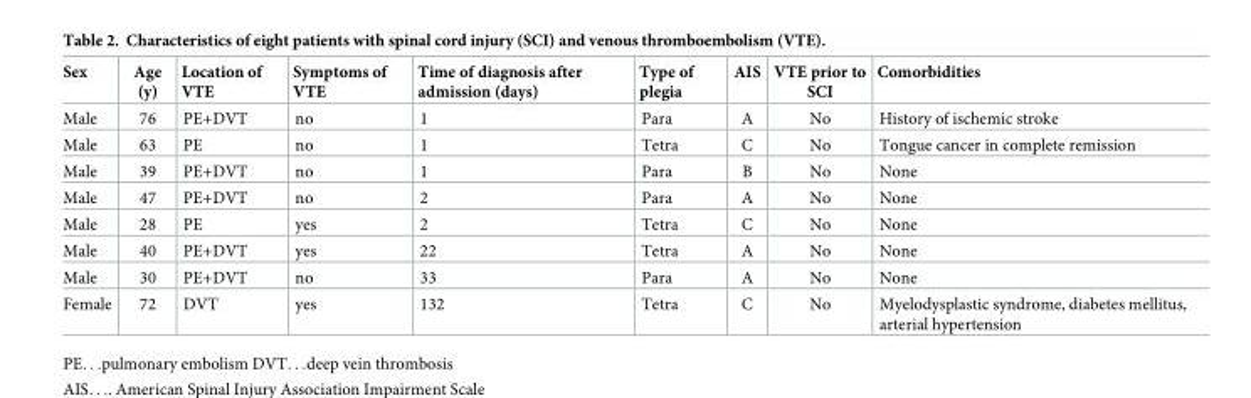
<table><thead><tr><td>Sex</td><td>Age (y)</td><td>Location of VTE</td><td>Symptoms of VTE</td><td>Time of diagnosis after admission (days)</td><td>Type of plegia</td><td>AIS</td><td>VTE prior to SCI</td><td>Comorbidities</td></tr></thead><tbody><tr><td>Male</td><td>76</td><td>PE+DVT</td><td>no</td><td>1</td><td>Para</td><td>A</td><td>No</td><td>History of ischemic stroke</td></tr><tr><td>Male</td><td>63</td><td>PE</td><td>no</td><td>1</td><td>Tetra</td><td>C</td><td>No</td><td>Tongue cancer in complete remission</td></tr><tr><td>Male</td><td>39</td><td>PE+DVT</td><td>no</td><td>1</td><td>Para</td><td>B</td><td>No</td><td>None</td></tr><tr><td>Male</td><td>47</td><td>PE+DVT</td><td>no</td><td>2</td><td>Para</td><td>A</td><td>No</td><td>None</td></tr><tr><td>Male</td><td>28</td><td>PE</td><td>yes</td><td>2</td><td>Tetra</td><td>C</td><td>No</td><td>None</td></tr><tr><td>Male</td><td>40</td><td>PE+DVT</td><td>yes</td><td>22</td><td>Tetra</td><td>A</td><td>No</td><td>None</td></tr><tr><td>Male</td><td>30</td><td>PE+DVT</td><td>no</td><td>33</td><td>Para</td><td>A</td><td>No</td><td>None</td></tr><tr><td>Female</td><td>72</td><td>DVT</td><td>yes</td><td>132</td><td>Tetra</td><td>C</td><td>No</td><td>Myelodysplastic syndrome, diabetes mellitus, arterial hypertension</td></tr></tbody></table>